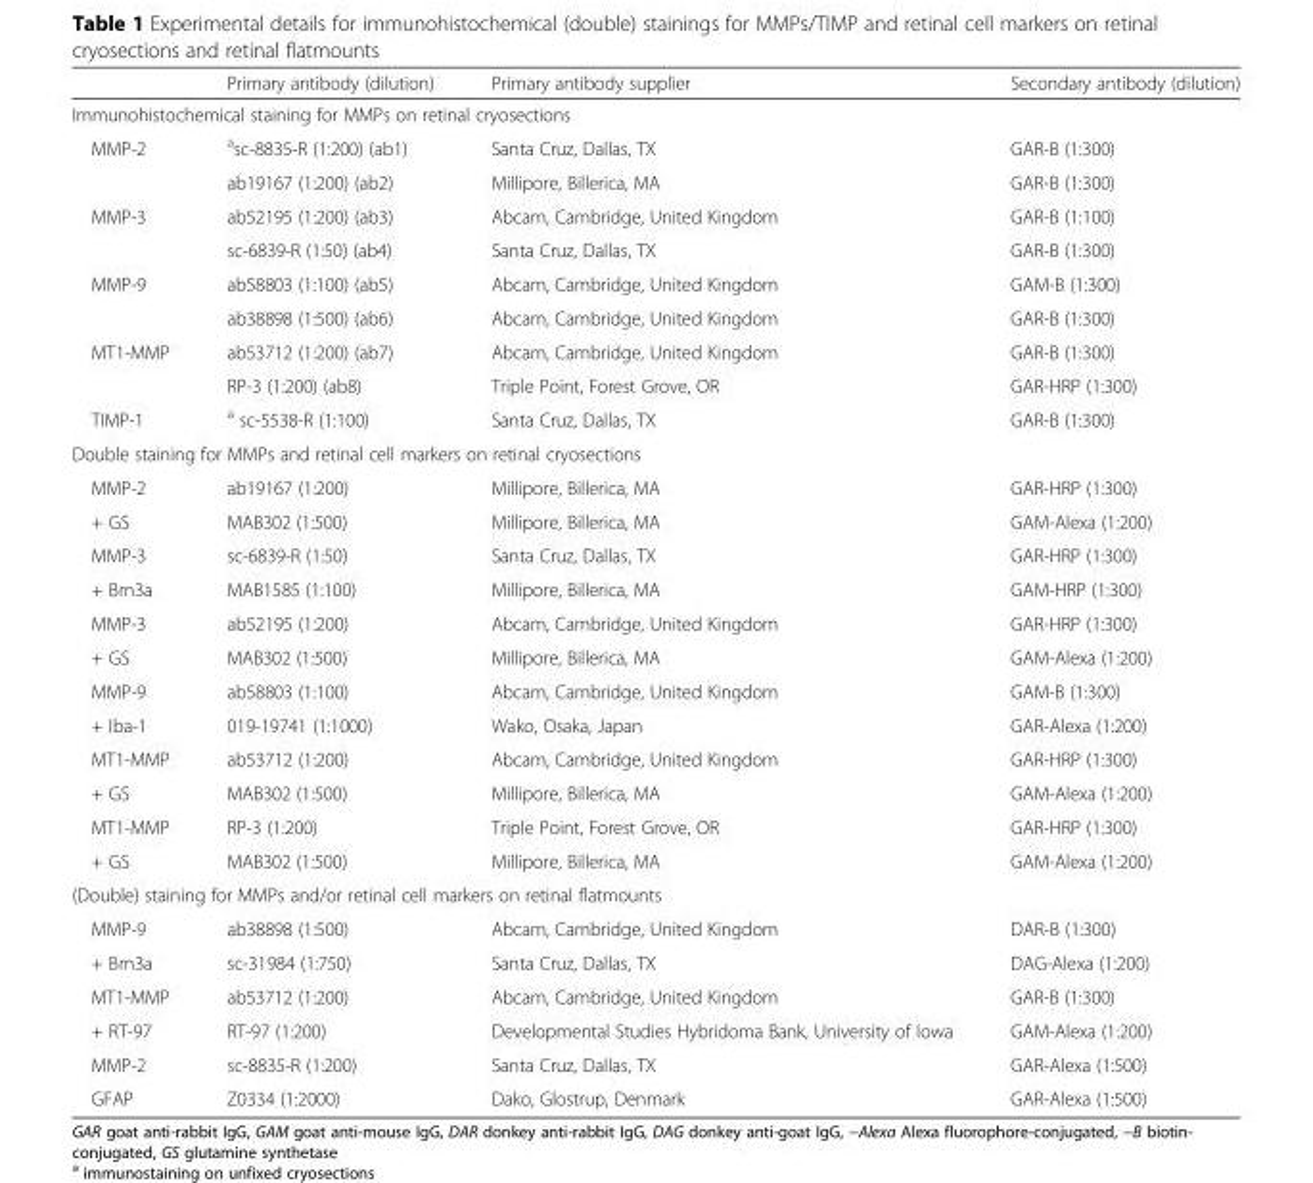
<table><thead><tr><td></td><td>Primary antibody (dilution)</td><td>Primary antibody supplier</td><td>Secondary antibody (dilution)</td></tr></thead><tbody><tr><td colspan="4">Immunohistochemical staining for MMPs on retinal cryosections</td></tr><tr><td rowspan="2">MMP-2</td><td><sup>a</sup>sc-8835-R (1:200) (ab1)</td><td>Santa Cruz, Dallas, TX</td><td>GAR-B (1:300)</td></tr><tr><td>ab19167 (1:200) (ab2)</td><td>Millipore, Billerica, MA</td><td>GAR-B (1:300)</td></tr><tr><td rowspan="2">MMP-3</td><td>ab52195 (1:200) (ab3)</td><td>Abcam, Cambridge, United Kingdom</td><td>GAR-B (1:100)</td></tr><tr><td>sc-6839-R (1:50) (ab4)</td><td>Santa Cruz, Dallas, TX</td><td>GAR-B (1:300)</td></tr><tr><td rowspan="2">MMP-9</td><td>ab58803 (1:100) (ab5)</td><td>Abcam, Cambridge, United Kingdom</td><td>GAM-B (1:300)</td></tr><tr><td>ab38898 (1:500) (ab6)</td><td>Abcam, Cambridge, United Kingdom</td><td>GAR-B (1:300)</td></tr><tr><td rowspan="2">MT1-MMP</td><td>ab53712 (1:200) (ab7)</td><td>Abcam, Cambridge, United Kingdom</td><td>GAR-B (1:300)</td></tr><tr><td>RP-3 (1:200) (ab8)</td><td>Triple Point, Forest Grove, OR</td><td>GAR-HRP (1:300)</td></tr><tr><td>TIMP-1</td><td><sup>a</sup> sc-5538-R (1:100)</td><td>Santa Cruz, Dallas, TX</td><td>GAR-B (1:300)</td></tr><tr><td colspan="4">Double staining for MMPs and retinal cell markers on retinal cryosections</td></tr><tr><td>MMP-2</td><td>ab19167 (1:200)</td><td>Millipore, Billerica, MA</td><td>GAR-HRP (1:300)</td></tr><tr><td>+ GS</td><td>MAB302 (1:500)</td><td>Millipore, Billerica, MA</td><td>GAM-Alexa (1:200)</td></tr><tr><td>MMP-3</td><td>sc-6839-R (1:50)</td><td>Santa Cruz, Dallas, TX</td><td>GAR-HRP (1:300)</td></tr><tr><td>+ Brn3a</td><td>MAB1585 (1:100)</td><td>Millipore, Billerica, MA</td><td>GAM-HRP (1:300)</td></tr><tr><td>MMP-3</td><td>ab52195 (1:200)</td><td>Abcam, Cambridge, United Kingdom</td><td>GAR-HRP (1:300)</td></tr><tr><td>+ GS</td><td>MAB302 (1:500)</td><td>Millipore, Billerica, MA</td><td>GAM-Alexa (1:200)</td></tr><tr><td>MMP-9</td><td>ab58803 (1:100)</td><td>Abcam, Cambridge, United Kingdom</td><td>GAM-B (1:300)</td></tr><tr><td>+ Iba-1</td><td>019-19741 (1:1000)</td><td>Wako, Osaka, Japan</td><td>GAR-Alexa (1:200)</td></tr><tr><td>MT1-MMP</td><td>ab53712 (1:200)</td><td>Abcam, Cambridge, United Kingdom</td><td>GAR-HRP (1:300)</td></tr><tr><td>+ GS</td><td>MAB302 (1:500)</td><td>Millipore, Billerica, MA</td><td>GAM-Alexa (1:200)</td></tr><tr><td>MT1-MMP</td><td>RP-3 (1:200)</td><td>Triple Point, Forest Grove, OR</td><td>GAR-HRP (1:300)</td></tr><tr><td>+ GS</td><td>MAB302 (1:500)</td><td>Millipore, Billerica, MA</td><td>GAM-Alexa (1:200)</td></tr><tr><td colspan="4">(Double) staining for MMPs and/or retinal cell markers on retinal flatmounts</td></tr><tr><td>MMP-9</td><td>ab38898 (1:500)</td><td>Abcam, Cambridge, United Kingdom</td><td>DAR-B (1:300)</td></tr><tr><td>+ Brn3a</td><td>sc-31984 (1:750)</td><td>Santa Cruz, Dallas, TX</td><td>DAG-Alexa (1:200)</td></tr><tr><td>MT1-MMP</td><td>ab53712 (1:200)</td><td>Abcam, Cambridge, United Kingdom</td><td>GAR-B (1:300)</td></tr><tr><td>+ RT-97</td><td>RT-97 (1:200)</td><td>Developmental Studies Hybridoma Bank, University of Iowa</td><td>GAM-Alexa (1:200)</td></tr><tr><td>MMP-2</td><td>sc-8835-R (1:200)</td><td>Santa Cruz, Dallas, TX</td><td>GAR-Alexa (1:500)</td></tr><tr><td>GFAP</td><td>Z0334 (1:2000)</td><td>Dako, Glostrup, Denmark</td><td>GAR-Alexa (1:500)</td></tr></tbody></table>